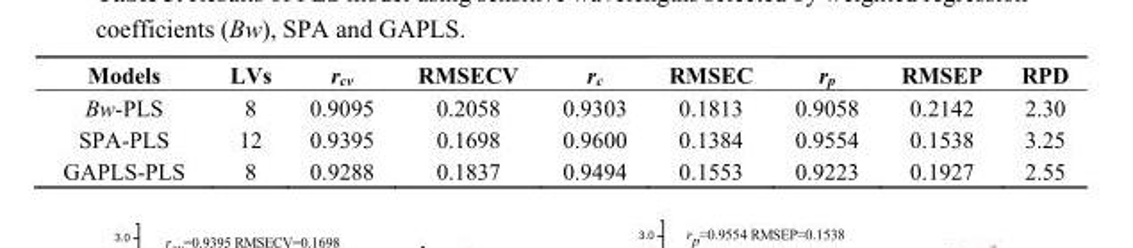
<table><thead><tr><td>Models</td><td>LVs</td><td>r<sub>cv</sub></td><td>RMSECV</td><td>r<sub>c</sub></td><td>RMSEC</td><td>r<sub>p</sub></td><td>RMSEP</td><td>RPD</td></tr></thead><tbody><tr><td>Bw-PLS</td><td>8</td><td>0.9095</td><td>0.2058</td><td>0.9303</td><td>0.1813</td><td>0.9058</td><td>0.2142</td><td>2.30</td></tr><tr><td>SPA-PLS</td><td>12</td><td>0.9395</td><td>0.1698</td><td>0.9600</td><td>0.1384</td><td>0.9554</td><td>0.1538</td><td>3.25</td></tr><tr><td>GAPLS-PLS</td><td>8</td><td>0.9288</td><td>0.1837</td><td>0.9494</td><td>0.1553</td><td>0.9223</td><td>0.1927</td><td>2.55</td></tr></tbody></table>